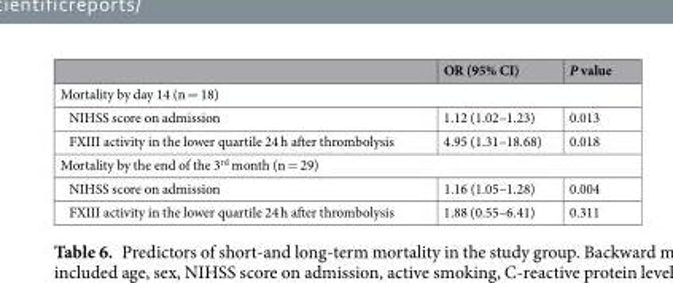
<table><thead><tr><td></td><td>OR (95% CI)</td><td>P value</td></tr></thead><tbody><tr><td colspan="3">Mortality by day 14 (n = 18)</td></tr><tr><td>NIHSS score on admission</td><td>1.12 (1.02–1.23)</td><td>0.013</td></tr><tr><td>FXIII activity in the lower quartile 24 h after thrombolysis</td><td>4.95 (1.31–18.68)</td><td>0.018</td></tr><tr><td colspan="3">Mortality by the end of the 3<sup>rd</sup> month (n = 29)</td></tr><tr><td>NIHSS score on admission</td><td>1.16 (1.05–1.28)</td><td>0.004</td></tr><tr><td>FXIII activity in the lower quartile 24 h after thrombolysis</td><td>1.88 (0.55–6.41)</td><td>0.311</td></tr></tbody></table>